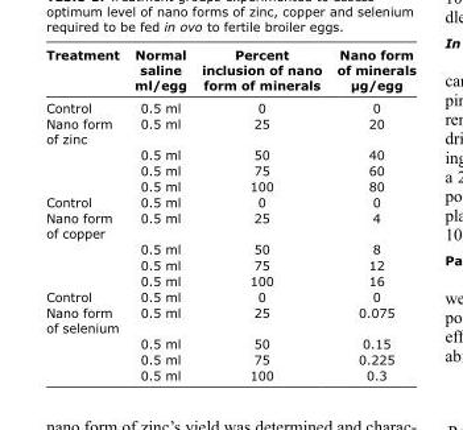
<table><thead><tr><td>Treatment</td><td>Normal saline ml/egg</td><td>Percent inclusion of nano form of minerals</td><td>Nano form of minerals µg/egg</td></tr></thead><tbody><tr><td>Control</td><td>0.5 ml</td><td>0</td><td>0</td></tr><tr><td rowspan="4">Nano form of zinc</td><td>0.5 ml</td><td>25</td><td>20</td></tr><tr><td>0.5 ml</td><td>50</td><td>40</td></tr><tr><td>0.5 ml</td><td>75</td><td>60</td></tr><tr><td>0.5 ml</td><td>100</td><td>80</td></tr><tr><td>Control</td><td>0.5 ml</td><td>0</td><td>0</td></tr><tr><td rowspan="4">Nano form of copper</td><td>0.5 ml</td><td>25</td><td>4</td></tr><tr><td>0.5 ml</td><td>50</td><td>8</td></tr><tr><td>0.5 ml</td><td>75</td><td>12</td></tr><tr><td>0.5 ml</td><td>100</td><td>16</td></tr><tr><td>Control</td><td>0.5 ml</td><td>0</td><td>0</td></tr><tr><td rowspan="4">Nano form of selenium</td><td>0.5 ml</td><td>25</td><td>0.075</td></tr><tr><td>0.5 ml</td><td>50</td><td>0.15</td></tr><tr><td>0.5 ml</td><td>75</td><td>0.225</td></tr><tr><td>0.5 ml</td><td>100</td><td>0.3</td></tr></tbody></table>